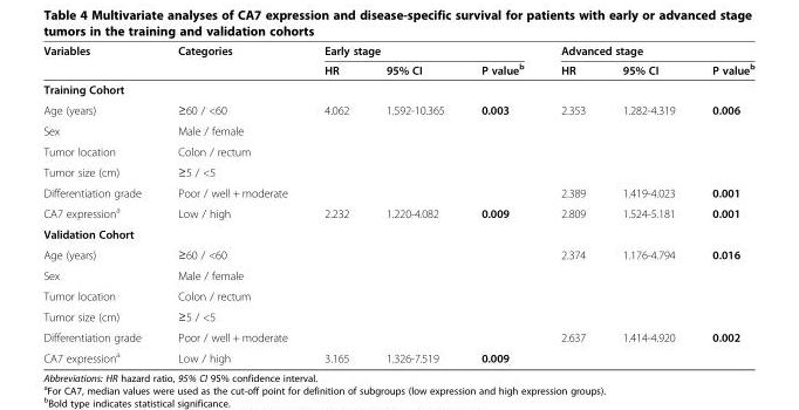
<table><thead><tr><td rowspan="2">Variables</td><td rowspan="2">Categories</td><td colspan="3">Early stage</td><td colspan="3">Advanced stage</td></tr><tr><td>HR</td><td>95% CI</td><td>P value<sup>b</sup></td><td>HR</td><td>95% CI</td><td>P value<sup>b</sup></td></tr></thead><tbody><tr><td colspan="8">Training Cohort</td></tr><tr><td>Age (years)</td><td>≥60 / &lt;60</td><td>4.062</td><td>1.592-10.365</td><td>0.003</td><td>2.353</td><td>1.282-4.319</td><td>0.006</td></tr><tr><td>Sex</td><td>Male / female</td><td></td><td></td><td></td><td></td><td></td><td></td></tr><tr><td>Tumor location</td><td>Colon / rectum</td><td></td><td></td><td></td><td></td><td></td><td></td></tr><tr><td>Tumor size (cm)</td><td>≥5 / &lt;5</td><td></td><td></td><td></td><td></td><td></td><td></td></tr><tr><td>Differentiation grade</td><td>Poor / well + moderate</td><td></td><td></td><td></td><td>2.389</td><td>1.419-4.023</td><td>0.001</td></tr><tr><td>CA7 expression<sup>a</sup></td><td>Low / high</td><td>2.232</td><td>1.220-4.082</td><td>0.009</td><td>2.809</td><td>1.524-5.181</td><td>0.001</td></tr><tr><td colspan="8">Validation Cohort</td></tr><tr><td>Age (years)</td><td>≥60 / &lt;60</td><td></td><td></td><td></td><td>2.374</td><td>1.176-4.794</td><td>0.016</td></tr><tr><td>Sex</td><td>Male / female</td><td></td><td></td><td></td><td></td><td></td><td></td></tr><tr><td>Tumor location</td><td>Colon / rectum</td><td></td><td></td><td></td><td></td><td></td><td></td></tr><tr><td>Tumor size (cm)</td><td>≥5 / &lt;5</td><td></td><td></td><td></td><td></td><td></td><td></td></tr><tr><td>Differentiation grade</td><td>Poor / well + moderate</td><td></td><td></td><td></td><td>2.637</td><td>1.414-4.920</td><td>0.002</td></tr><tr><td>CA7 expression<sup>a</sup></td><td>Low / high</td><td>3.165</td><td>1.326-7.519</td><td>0.009</td><td></td><td></td><td></td></tr></tbody></table>